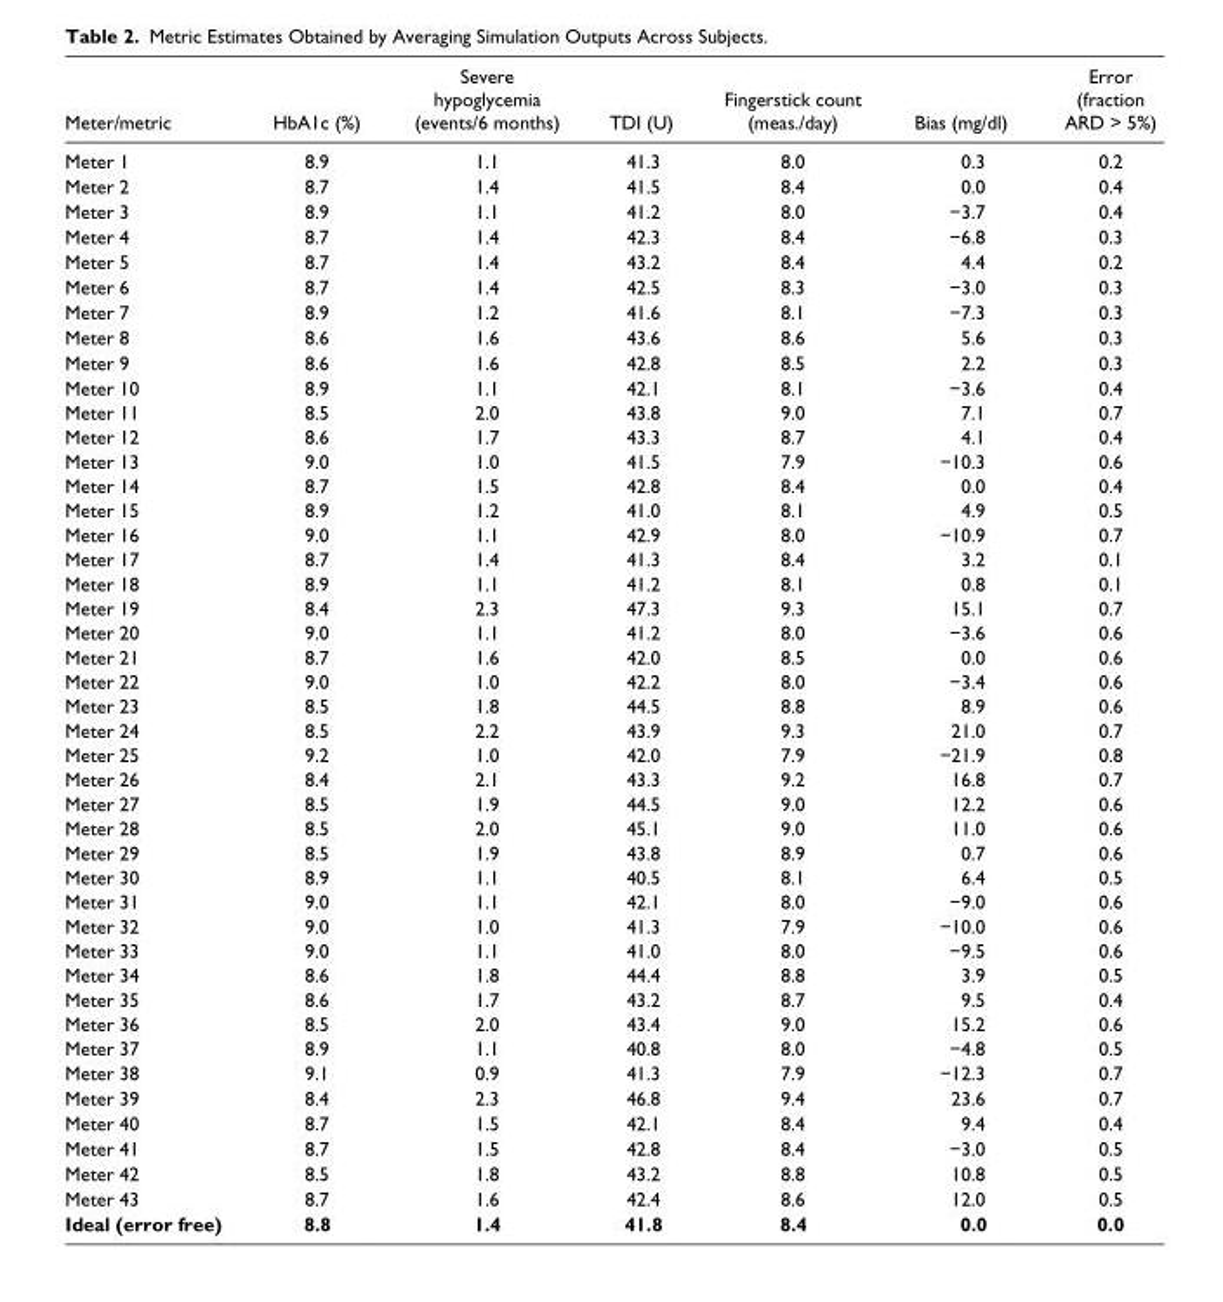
<table><thead><tr><td>Meter/metric</td><td>HbA1c (%)</td><td>Severe hypoglycemia (events/6 months)</td><td>TDI (U)</td><td>Fingerstick count (meas./day)</td><td>Bias (mg/dl)</td><td>Error (fraction ARD &gt; 5%)</td></tr></thead><tbody><tr><td>Meter 1</td><td>8.9</td><td>1.1</td><td>41.3</td><td>8.0</td><td>0.3</td><td>0.2</td></tr><tr><td>Meter 2</td><td>8.7</td><td>1.4</td><td>41.5</td><td>8.4</td><td>0.0</td><td>0.4</td></tr><tr><td>Meter 3</td><td>8.9</td><td>1.1</td><td>41.2</td><td>8.0</td><td>−3.7</td><td>0.4</td></tr><tr><td>Meter 4</td><td>8.7</td><td>1.4</td><td>42.3</td><td>8.4</td><td>−6.8</td><td>0.3</td></tr><tr><td>Meter 5</td><td>8.7</td><td>1.4</td><td>43.2</td><td>8.4</td><td>4.4</td><td>0.2</td></tr><tr><td>Meter 6</td><td>8.7</td><td>1.4</td><td>42.5</td><td>8.3</td><td>−3.0</td><td>0.3</td></tr><tr><td>Meter 7</td><td>8.9</td><td>1.2</td><td>41.6</td><td>8.1</td><td>−7.3</td><td>0.3</td></tr><tr><td>Meter 8</td><td>8.6</td><td>1.6</td><td>43.6</td><td>8.6</td><td>5.6</td><td>0.3</td></tr><tr><td>Meter 9</td><td>8.6</td><td>1.6</td><td>42.8</td><td>8.5</td><td>2.2</td><td>0.3</td></tr><tr><td>Meter 10</td><td>8.9</td><td>1.1</td><td>42.1</td><td>8.1</td><td>−3.6</td><td>0.4</td></tr><tr><td>Meter 11</td><td>8.5</td><td>2.0</td><td>43.8</td><td>9.0</td><td>7.1</td><td>0.7</td></tr><tr><td>Meter 12</td><td>8.6</td><td>1.7</td><td>43.3</td><td>8.7</td><td>4.1</td><td>0.4</td></tr><tr><td>Meter 13</td><td>9.0</td><td>1.0</td><td>41.5</td><td>7.9</td><td>−10.3</td><td>0.6</td></tr><tr><td>Meter 14</td><td>8.7</td><td>1.5</td><td>42.8</td><td>8.4</td><td>0.0</td><td>0.4</td></tr><tr><td>Meter 15</td><td>8.9</td><td>1.2</td><td>41.0</td><td>8.1</td><td>4.9</td><td>0.5</td></tr><tr><td>Meter 16</td><td>9.0</td><td>1.1</td><td>42.9</td><td>8.0</td><td>−10.9</td><td>0.7</td></tr><tr><td>Meter 17</td><td>8.7</td><td>1.4</td><td>41.3</td><td>8.4</td><td>3.2</td><td>0.1</td></tr><tr><td>Meter 18</td><td>8.9</td><td>1.1</td><td>41.2</td><td>8.1</td><td>0.8</td><td>0.1</td></tr><tr><td>Meter 19</td><td>8.4</td><td>2.3</td><td>47.3</td><td>9.3</td><td>15.1</td><td>0.7</td></tr><tr><td>Meter 20</td><td>9.0</td><td>1.1</td><td>41.2</td><td>8.0</td><td>−3.6</td><td>0.6</td></tr><tr><td>Meter 21</td><td>8.7</td><td>1.6</td><td>42.0</td><td>8.5</td><td>0.0</td><td>0.6</td></tr><tr><td>Meter 22</td><td>9.0</td><td>1.0</td><td>42.2</td><td>8.0</td><td>−3.4</td><td>0.6</td></tr><tr><td>Meter 23</td><td>8.5</td><td>1.8</td><td>44.5</td><td>8.8</td><td>8.9</td><td>0.6</td></tr><tr><td>Meter 24</td><td>8.5</td><td>2.2</td><td>43.9</td><td>9.3</td><td>21.0</td><td>0.7</td></tr><tr><td>Meter 25</td><td>9.2</td><td>1.0</td><td>42.0</td><td>7.9</td><td>−21.9</td><td>0.8</td></tr><tr><td>Meter 26</td><td>8.4</td><td>2.1</td><td>43.3</td><td>9.2</td><td>16.8</td><td>0.7</td></tr><tr><td>Meter 27</td><td>8.5</td><td>1.9</td><td>44.5</td><td>9.0</td><td>12.2</td><td>0.6</td></tr><tr><td>Meter 28</td><td>8.5</td><td>2.0</td><td>45.1</td><td>9.0</td><td>11.0</td><td>0.6</td></tr><tr><td>Meter 29</td><td>8.5</td><td>1.9</td><td>43.8</td><td>8.9</td><td>0.7</td><td>0.6</td></tr><tr><td>Meter 30</td><td>8.9</td><td>1.1</td><td>40.5</td><td>8.1</td><td>6.4</td><td>0.5</td></tr><tr><td>Meter 31</td><td>9.0</td><td>1.1</td><td>42.1</td><td>8.0</td><td>−9.0</td><td>0.6</td></tr><tr><td>Meter 32</td><td>9.0</td><td>1.0</td><td>41.3</td><td>7.9</td><td>−10.0</td><td>0.6</td></tr><tr><td>Meter 33</td><td>9.0</td><td>1.1</td><td>41.0</td><td>8.0</td><td>−9.5</td><td>0.6</td></tr><tr><td>Meter 34</td><td>8.6</td><td>1.8</td><td>44.4</td><td>8.8</td><td>3.9</td><td>0.5</td></tr><tr><td>Meter 35</td><td>8.6</td><td>1.7</td><td>43.2</td><td>8.7</td><td>9.5</td><td>0.4</td></tr><tr><td>Meter 36</td><td>8.5</td><td>2.0</td><td>43.4</td><td>9.0</td><td>15.2</td><td>0.6</td></tr><tr><td>Meter 37</td><td>8.9</td><td>1.1</td><td>40.8</td><td>8.0</td><td>−4.8</td><td>0.5</td></tr><tr><td>Meter 38</td><td>9.1</td><td>0.9</td><td>41.3</td><td>7.9</td><td>−12.3</td><td>0.7</td></tr><tr><td>Meter 39</td><td>8.4</td><td>2.3</td><td>46.8</td><td>9.4</td><td>23.6</td><td>0.7</td></tr><tr><td>Meter 40</td><td>8.7</td><td>1.5</td><td>42.1</td><td>8.4</td><td>9.4</td><td>0.4</td></tr><tr><td>Meter 41</td><td>8.7</td><td>1.5</td><td>42.8</td><td>8.4</td><td>−3.0</td><td>0.5</td></tr><tr><td>Meter 42</td><td>8.5</td><td>1.8</td><td>43.2</td><td>8.8</td><td>10.8</td><td>0.5</td></tr><tr><td>Meter 43</td><td>8.7</td><td>1.6</td><td>42.4</td><td>8.6</td><td>12.0</td><td>0.5</td></tr><tr><td>Ideal (error free)</td><td>8.8</td><td>1.4</td><td>41.8</td><td>8.4</td><td>0.0</td><td>0.0</td></tr></tbody></table>